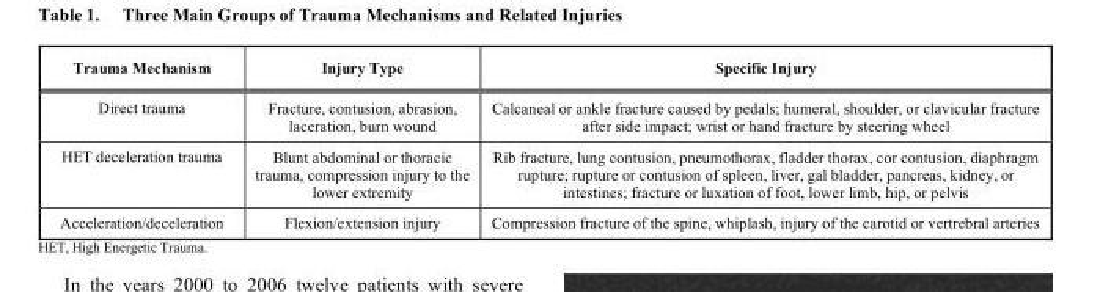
<table><thead><tr><td>Trauma Mechanism</td><td>Injury Type</td><td>Specific Injury</td></tr></thead><tbody><tr><td>Direct trauma</td><td>Fracture, contusion, abrasion, laceration, burn wound</td><td>Calcaneal or ankle fracture caused by pedals; humeral, shoulder, or clavicular fracture after side impact; wrist or hand fracture by steering wheel</td></tr><tr><td>HET deceleration trauma</td><td>Blunt abdominal or thoracic trauma, compression injury to the lower extremity</td><td>Rib fracture, lung contusion, pneumothorax, fladder thorax, cor contusion, diaphragm rupture; rupture or contusion of spleen, liver, gal bladder, pancreas, kidney, or intestines; fracture or luxation of foot, lower limb, hip, or pelvis</td></tr><tr><td>Acceleration/deceleration</td><td>Flexion/extension injury</td><td>Compression fracture of the spine, whiplash, injury of the carotid or vertrebral arteries</td></tr></tbody></table>